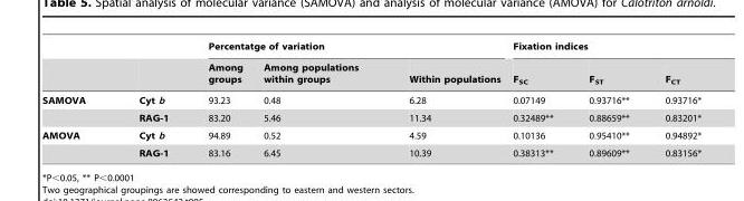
<table><thead><tr><td rowspan="2"></td><td rowspan="2"></td><td colspan="3">Percentatge of variation</td><td colspan="3">Fixation indices</td></tr><tr><td>Among groups</td><td>Among populations within groups</td><td>Within populations</td><td>F<sub>SC</sub></td><td>F<sub>ST</sub></td><td>F<sub>CT</sub></td></tr></thead><tbody><tr><td rowspan="2">SAMOVA</td><td>Cyt b</td><td>93.23</td><td>0.48</td><td>6.28</td><td>0.07149</td><td>0.93716**</td><td>0.93716*</td></tr><tr><td>RAG-1</td><td>83.20</td><td>5.46</td><td>11.34</td><td>0.32489**</td><td>0.88659**</td><td>0.83201*</td></tr><tr><td rowspan="2">AMOVA</td><td>Cyt b</td><td>94.89</td><td>0.52</td><td>4.59</td><td>0.10136</td><td>0.95410**</td><td>0.94892*</td></tr><tr><td>RAG-1</td><td>83.16</td><td>6.45</td><td>10.39</td><td>0.38313**</td><td>0.89609**</td><td>0.83156*</td></tr></tbody></table>